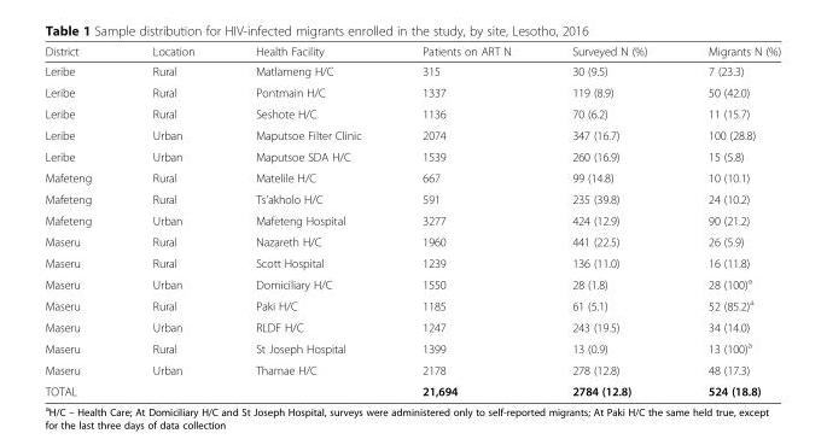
<table><thead><tr><td>District</td><td>Location</td><td>Health Facility</td><td>Patients on ART N</td><td>Surveyed N (%)</td><td>Migrants N (%)</td></tr></thead><tbody><tr><td>Leribe</td><td>Rural</td><td>Matlameng H/C</td><td>315</td><td>30 (9.5)</td><td>7 (23.3)</td></tr><tr><td>Leribe</td><td>Rural</td><td>Pontmain H/C</td><td>1337</td><td>119 (8.9)</td><td>50 (42.0)</td></tr><tr><td>Leribe</td><td>Rural</td><td>Seshote H/C</td><td>1136</td><td>70 (6.2)</td><td>11 (15.7)</td></tr><tr><td>Leribe</td><td>Urban</td><td>Maputsoe Filter Clinic</td><td>2074</td><td>347 (16.7)</td><td>100 (28.8)</td></tr><tr><td>Leribe</td><td>Urban</td><td>Maputsoe SDA H/C</td><td>1539</td><td>260 (16.9)</td><td>15 (5.8)</td></tr><tr><td>Mafeteng</td><td>Rural</td><td>Matelile H/C</td><td>667</td><td>99 (14.8)</td><td>10 (10.1)</td></tr><tr><td>Mafeteng</td><td>Rural</td><td>Ts’akholo H/C</td><td>591</td><td>235 (39.8)</td><td>24 (10.2)</td></tr><tr><td>Mafeteng</td><td>Urban</td><td>Mafeteng Hospital</td><td>3277</td><td>424 (12.9)</td><td>90 (21.2)</td></tr><tr><td>Maseru</td><td>Rural</td><td>Nazareth H/C</td><td>1960</td><td>441 (22.5)</td><td>26 (5.9)</td></tr><tr><td>Maseru</td><td>Rural</td><td>Scott Hospital</td><td>1239</td><td>136 (11.0)</td><td>16 (11.8)</td></tr><tr><td>Maseru</td><td>Urban</td><td>Domiciliary H/C</td><td>1550</td><td>28 (1.8)</td><td>28 (100)<sup>a</sup></td></tr><tr><td>Maseru</td><td>Rural</td><td>Paki H/C</td><td>1185</td><td>61 (5.1)</td><td>52 (85.2)<sup>a</sup></td></tr><tr><td>Maseru</td><td>Urban</td><td>RLDF H/C</td><td>1247</td><td>243 (19.5)</td><td>34 (14.0)</td></tr><tr><td>Maseru</td><td>Rural</td><td>St Joseph Hospital</td><td>1399</td><td>13 (0.9)</td><td>13 (100)<sup>a</sup></td></tr><tr><td>Maseru</td><td>Urban</td><td>Thamae H/C</td><td>2178</td><td>278 (12.8)</td><td>48 (17.3)</td></tr><tr><td>TOTAL</td><td></td><td></td><td>21,694</td><td>2784 (12.8)</td><td>524 (18.8)</td></tr></tbody></table>